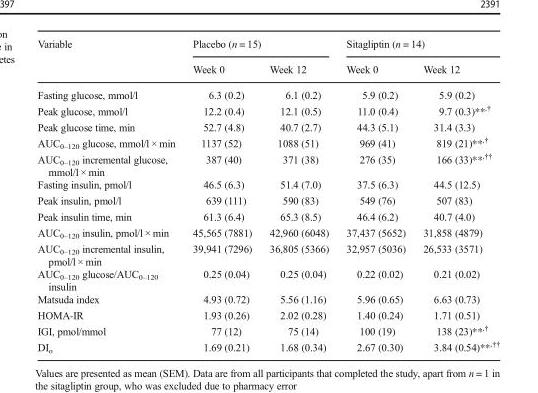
<table><thead><tr><td rowspan="2">Variable</td><td colspan="2">Placebo (n = 15)</td><td colspan="2">Sitagliptin (n = 14)</td></tr><tr><td>Week 0</td><td>Week 12</td><td>Week 0</td><td>Week 12</td></tr></thead><tbody><tr><td>Fasting glucose, mmol/l</td><td>6.3 (0.2)</td><td>6.1 (0.2)</td><td>5.9 (0.2)</td><td>5.9 (0.2)</td></tr><tr><td>Peak glucose, mmol/l</td><td>12.2 (0.4)</td><td>12.1 (0.5)</td><td>11.0 (0.4)</td><td>9.7 (0.3)**<sup>,†</sup></td></tr><tr><td>Peak glucose time, min</td><td>52.7 (4.8)</td><td>40.7 (2.7)</td><td>44.3 (5.1)</td><td>31.4 (3.3)</td></tr><tr><td>AUC<sub>0–120</sub> glucose, mmol/l × min</td><td>1137 (52)</td><td>1088 (51)</td><td>969 (41)</td><td>819 (21)**<sup>,†</sup></td></tr><tr><td>AUC<sub>0–120</sub> incremental glucose, mmol/l × min</td><td>387 (40)</td><td>371 (38)</td><td>276 (35)</td><td>166 (33)**<sup>,††</sup></td></tr><tr><td>Fasting insulin, pmol/l</td><td>46.5 (6.3)</td><td>51.4 (7.0)</td><td>37.5 (6.3)</td><td>44.5 (12.5)</td></tr><tr><td>Peak insulin, pmol/l</td><td>639 (111)</td><td>590 (83)</td><td>549 (76)</td><td>507 (83)</td></tr><tr><td>Peak insulin time, min</td><td>61.3 (6.4)</td><td>65.3 (8.5)</td><td>46.4 (6.2)</td><td>40.7 (4.0)</td></tr><tr><td>AUC<sub>0–120</sub> insulin, pmol/l × min</td><td>45,565 (7881)</td><td>42,960 (6048)</td><td>37,437 (5652)</td><td>31,858 (4879)</td></tr><tr><td>AUC<sub>0–120</sub> incremental insulin, pmol/l × min</td><td>39,941 (7296)</td><td>36,805 (5366)</td><td>32,957 (5036)</td><td>26,533 (3571)</td></tr><tr><td>AUC<sub>0–120</sub> glucose/AUC<sub>0–120</sub> insulin</td><td>0.25 (0.04)</td><td>0.25 (0.04)</td><td>0.22 (0.02)</td><td>0.21 (0.02)</td></tr><tr><td>Matsuda index</td><td>4.93 (0.72)</td><td>5.56 (1.16)</td><td>5.96 (0.65)</td><td>6.63 (0.73)</td></tr><tr><td>HOMA-IR</td><td>1.93 (0.26)</td><td>2.02 (0.28)</td><td>1.40 (0.24)</td><td>1.71 (0.51)</td></tr><tr><td>IGI, pmol/mmol</td><td>77 (12)</td><td>75 (14)</td><td>100 (19)</td><td>138 (23)**<sup>,†</sup></td></tr><tr><td>DI<sub>o</sub></td><td>1.69 (0.21)</td><td>1.68 (0.34)</td><td>2.67 (0.30)</td><td>3.84 (0.54)**<sup>,††</sup></td></tr></tbody></table>